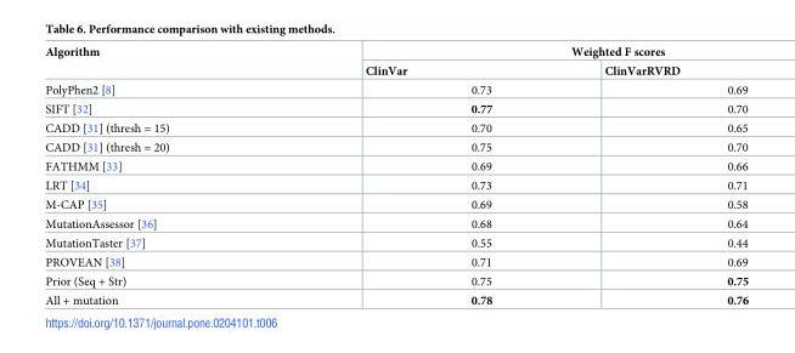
<table><thead><tr><td rowspan="2">Algorithm</td><td colspan="2">Weighted F scores</td></tr><tr><td>ClinVar</td><td>ClinVarRVRD</td></tr></thead><tbody><tr><td>PolyPhen2 [8]</td><td>0.73</td><td>0.69</td></tr><tr><td>SIFT [32]</td><td>0.77</td><td>0.70</td></tr><tr><td>CADD [31] (thresh = 15)</td><td>0.70</td><td>0.65</td></tr><tr><td>CADD [31] (thresh = 20)</td><td>0.75</td><td>0.70</td></tr><tr><td>FATHMM [33]</td><td>0.69</td><td>0.66</td></tr><tr><td>LRT [34]</td><td>0.73</td><td>0.71</td></tr><tr><td>M-CAP [35]</td><td>0.69</td><td>0.58</td></tr><tr><td>MutationAssessor [36]</td><td>0.68</td><td>0.64</td></tr><tr><td>MutationTaster [37]</td><td>0.55</td><td>0.44</td></tr><tr><td>PROVEAN [38]</td><td>0.71</td><td>0.69</td></tr><tr><td>Prior (Seq + Str)</td><td>0.75</td><td>0.75</td></tr><tr><td>All + mutation</td><td>0.78</td><td>0.76</td></tr></tbody></table>